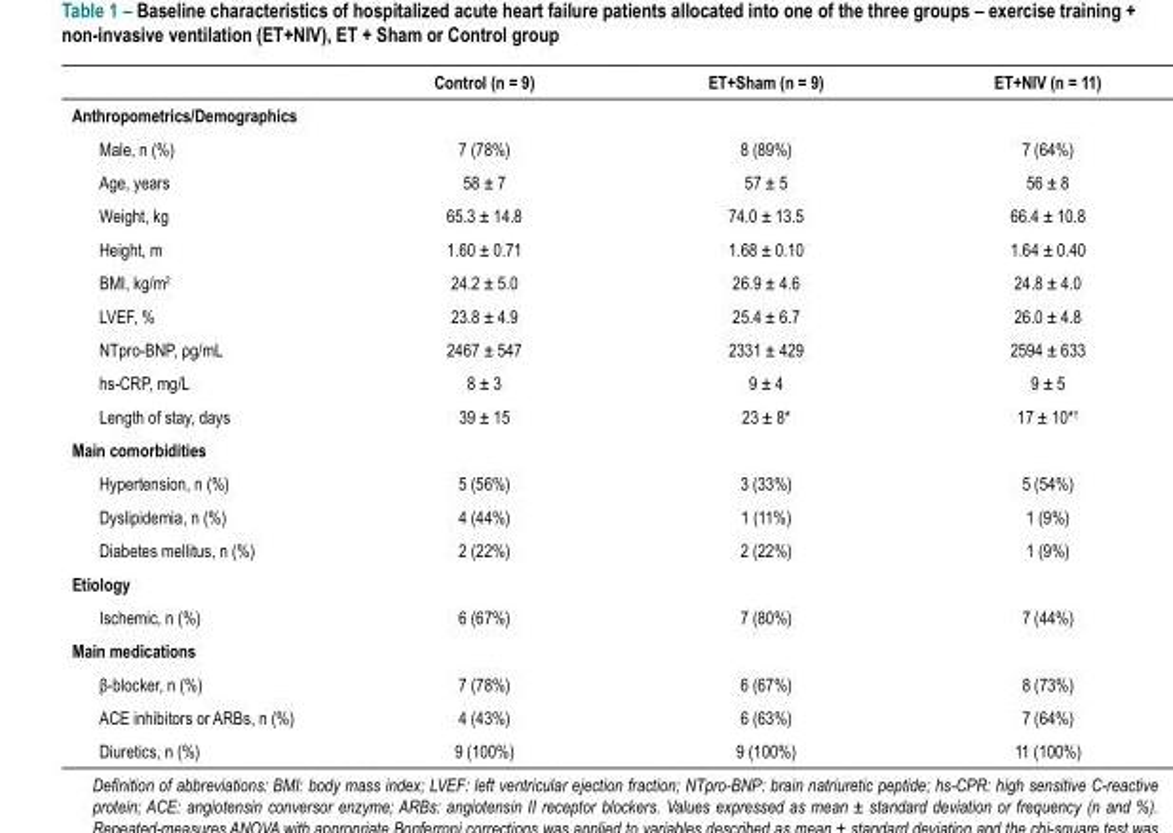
<table><thead><tr><td></td><td>Control (n = 9)</td><td>ET+Sham (n = 9)</td><td>ET+NIV (n = 11)</td></tr></thead><tbody><tr><td colspan="4">Anthropometrics/Demographics</td></tr><tr><td>Male, n (%)</td><td>7 (78%)</td><td>8 (89%)</td><td>7 (64%)</td></tr><tr><td>Age, years</td><td>58 ± 7</td><td>57 ± 5</td><td>56 ± 8</td></tr><tr><td>Weight, kg</td><td>65.3 ± 14.8</td><td>74.0 ± 13.5</td><td>66.4 ± 10.8</td></tr><tr><td>Height, m</td><td>1.60 ± 0.71</td><td>1.68 ± 0.10</td><td>1.64 ± 0.40</td></tr><tr><td>BMI, kg/m<sup>2</sup></td><td>24.2 ± 5.0</td><td>26.9 ± 4.6</td><td>24.8 ± 4.0</td></tr><tr><td>LVEF, %</td><td>23.8 ± 4.9</td><td>25.4 ± 6.7</td><td>26.0 ± 4.8</td></tr><tr><td>NTpro-BNP, ρg/mL</td><td>2467 ± 547</td><td>2331 ± 429</td><td>2594 ± 633</td></tr><tr><td>hs-CRP, mg/L</td><td>8 ± 3</td><td>9 ± 4</td><td>9 ± 5</td></tr><tr><td>Length of stay, days</td><td>39 ± 15</td><td>23 ± 8*</td><td>17 ± 10*<sup>†</sup></td></tr><tr><td colspan="4">Main comorbidities</td></tr><tr><td>Hypertension, n (%)</td><td>5 (56%)</td><td>3 (33%)</td><td>5 (54%)</td></tr><tr><td>Dyslipidemia, n (%)</td><td>4 (44%)</td><td>1 (11%)</td><td>1 (9%)</td></tr><tr><td>Diabetes mellitus, n (%)</td><td>2 (22%)</td><td>2 (22%)</td><td>1 (9%)</td></tr><tr><td colspan="4">Etiology</td></tr><tr><td>Ischemic, n (%)</td><td>6 (67%)</td><td>7 (80%)</td><td>7 (44%)</td></tr><tr><td colspan="4">Main medications</td></tr><tr><td>β-blocker, n (%)</td><td>7 (78%)</td><td>6 (67%)</td><td>8 (73%)</td></tr><tr><td>ACE inhibitors or ARBs, n (%)</td><td>4 (43%)</td><td>6 (63%)</td><td>7 (64%)</td></tr><tr><td>Diuretics, n (%)</td><td>9 (100%)</td><td>9 (100%)</td><td>11 (100%)</td></tr></tbody></table>